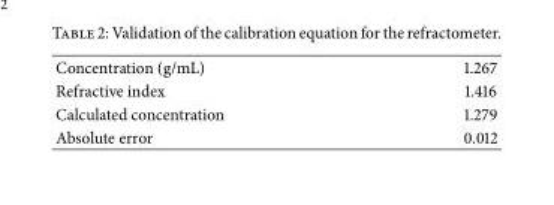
<table><tbody><tr><td>Concentration (g/mL)</td><td>1.267</td></tr><tr><td>Refractive index</td><td>1.416</td></tr><tr><td>Calculated concentration</td><td>1.279</td></tr><tr><td>Absolute error</td><td>0.012</td></tr></tbody></table>